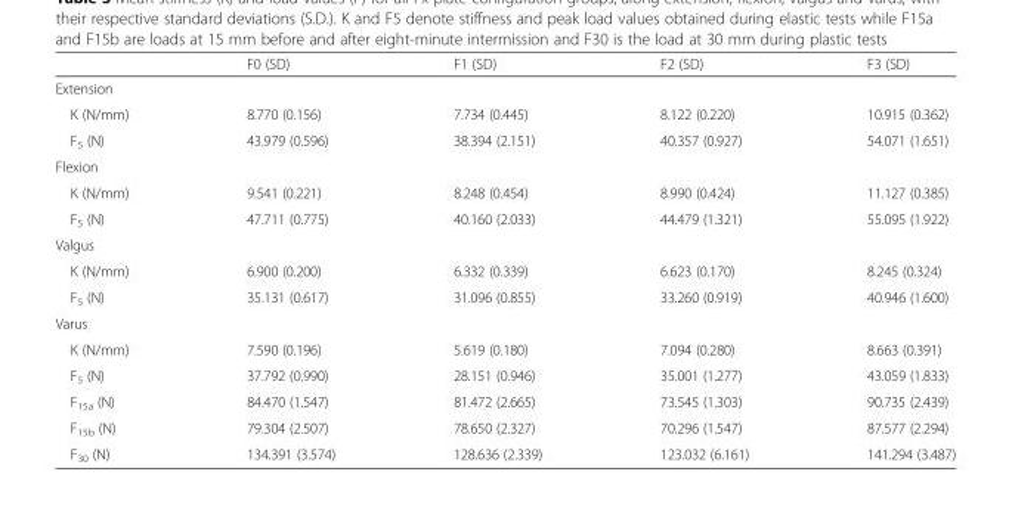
<table><thead><tr><td></td><td>F0 (SD)</td><td>F1 (SD)</td><td>F2 (SD)</td><td>F3 (SD)</td></tr></thead><tbody><tr><td colspan="5">Extension</td></tr><tr><td>K (N/mm)</td><td>8.770 (0.156)</td><td>7.734 (0.445)</td><td>8.122 (0.220)</td><td>10.915 (0.362)</td></tr><tr><td>F<sub>5</sub> (N)</td><td>43.979 (0.596)</td><td>38.394 (2.151)</td><td>40.357 (0.927)</td><td>54.071 (1.651)</td></tr><tr><td colspan="5">Flexion</td></tr><tr><td>K (N/mm)</td><td>9.541 (0.221)</td><td>8.248 (0.454)</td><td>8.990 (0.424)</td><td>11.127 (0.385)</td></tr><tr><td>F<sub>5</sub> (N)</td><td>47.711 (0.775)</td><td>40.160 (2.033)</td><td>44.479 (1.321)</td><td>55.095 (1.922)</td></tr><tr><td colspan="5">Valgus</td></tr><tr><td>K (N/mm)</td><td>6.900 (0.200)</td><td>6.332 (0.339)</td><td>6.623 (0.170)</td><td>8.245 (0.324)</td></tr><tr><td>F<sub>5</sub> (N)</td><td>35.131 (0.617)</td><td>31.096 (0.855)</td><td>33.260 (0.919)</td><td>40.946 (1.600)</td></tr><tr><td colspan="5">Varus</td></tr><tr><td>K (N/mm)</td><td>7.590 (0.196)</td><td>5.619 (0.180)</td><td>7.094 (0.280)</td><td>8.663 (0.391)</td></tr><tr><td>F<sub>5</sub> (N)</td><td>37.792 (0.990)</td><td>28.151 (0.946)</td><td>35.001 (1.277)</td><td>43.059 (1.833)</td></tr><tr><td>F<sub>15a</sub> (N)</td><td>84.470 (1.547)</td><td>81.472 (2.665)</td><td>73.545 (1.303)</td><td>90.735 (2.439)</td></tr><tr><td>F<sub>15b</sub> (N)</td><td>79.304 (2.507)</td><td>78.650 (2.327)</td><td>70.296 (1.547)</td><td>87.577 (2.294)</td></tr><tr><td>F<sub>30</sub> (N)</td><td>134.391 (3.574)</td><td>128.636 (2.339)</td><td>123.032 (6.161)</td><td>141.294 (3.487)</td></tr></tbody></table>